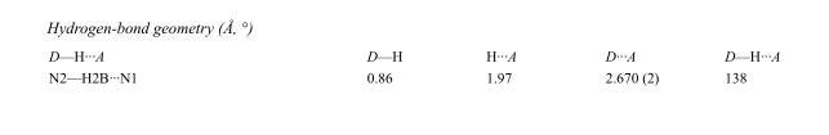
<table><tbody><tr><td>D—H···A</td><td>D—H</td><td>H···A</td><td>D···A</td><td>D—H···A</td></tr><tr><td>N2—H2B···N1</td><td>0.86</td><td>1.97</td><td>2.670 (2)</td><td>138</td></tr></tbody></table>